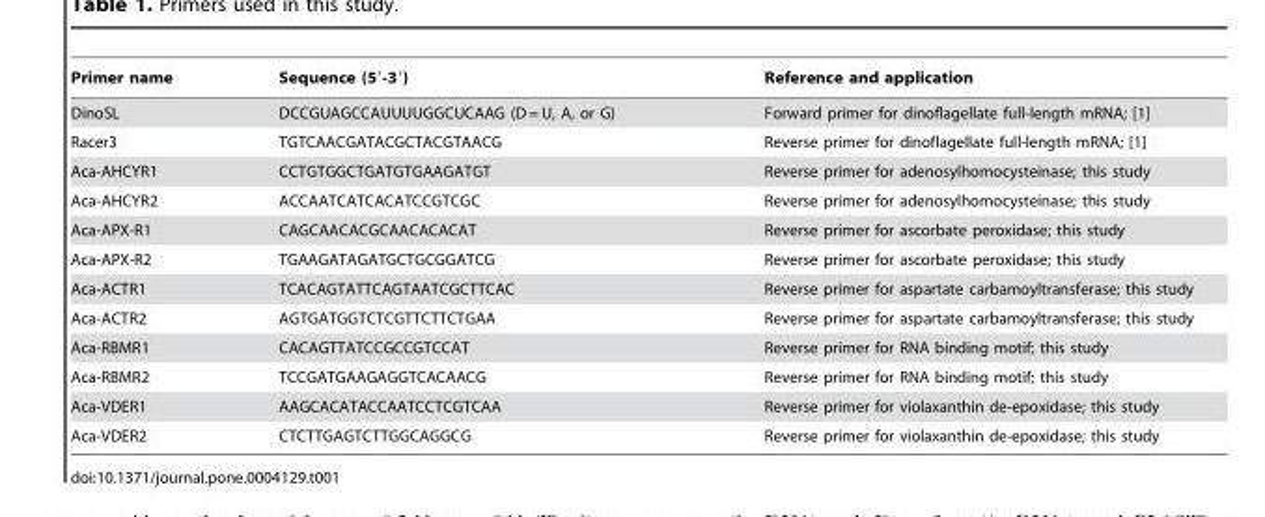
<table><thead><tr><td>Primer name</td><td>Sequence (5′-3′)</td><td>Reference and application</td></tr></thead><tbody><tr><td>DinoSL</td><td>DCCGUAGCCAUUUUGGCUCAAG (D = U, A, or G)</td><td>Forward primer for dinoflagellate full-length mRNA; [1]</td></tr><tr><td>Racer3</td><td>TGTCAACGATACGCTACGTAACG</td><td>Reverse primer for dinoflagellate full-length mRNA; [1]</td></tr><tr><td>Aca-AHCYR1</td><td>CCTGTGGCTGATGTGAAGATGT</td><td>Reverse primer for adenosylhomocysteinase; this study</td></tr><tr><td>Aca-AHCYR2</td><td>ACCAATCATCACATCCGTCGC</td><td>Reverse primer for adenosylhomocysteinase; this study</td></tr><tr><td>Aca-APX-R1</td><td>CAGCAACACGCAACACACAT</td><td>Reverse primer for ascorbate peroxidase; this study</td></tr><tr><td>Aca-APX-R2</td><td>TGAAGATAGATGCTGCGGATCG</td><td>Reverse primer for ascorbate peroxidase; this study</td></tr><tr><td>Aca-ACTR1</td><td>TCACAGTATTCAGTAATCGCTTCAC</td><td>Reverse primer for aspartate carbamoyltransferase; this study</td></tr><tr><td>Aca-ACTR2</td><td>AGTGATGGTCTCGTTCTTCTGAA</td><td>Reverse primer for aspartate carbamoyltransferase; this study</td></tr><tr><td>Aca-RBMR1</td><td>CACAGTTATCCGCCGTCCAT</td><td>Reverse primer for RNA binding motif; this study</td></tr><tr><td>Aca-RBMR2</td><td>TCCGATGAAGAGGTCACAACG</td><td>Reverse primer for RNA binding motif; this study</td></tr><tr><td>Aca-VDER1</td><td>AAGCACATACCAATCCTCGTCAA</td><td>Reverse primer for violaxanthin de-epoxidase; this study</td></tr><tr><td>Aca-VDER2</td><td>CTCTTGAGTCTTGGCAGGCG</td><td>Reverse primer for violaxanthin de-epoxidase; this study</td></tr></tbody></table>